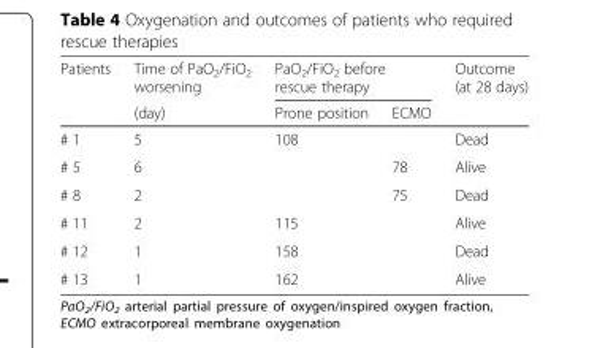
<table><thead><tr><td rowspan="2">Patients</td><td rowspan="2">Time of PaO<sub>2</sub>/FiO<sub>2</sub> worsening (day)</td><td colspan="2">PaO<sub>2</sub>/FiO<sub>2</sub> before rescue therapy</td><td rowspan="2">Outcome (at 28 days)</td></tr><tr><td>Prone position</td><td>ECMO</td></tr></thead><tbody><tr><td># 1</td><td>5</td><td>108</td><td></td><td>Dead</td></tr><tr><td># 5</td><td>6</td><td></td><td>78</td><td>Alive</td></tr><tr><td># 8</td><td>2</td><td></td><td>75</td><td>Dead</td></tr><tr><td># 11</td><td>2</td><td>115</td><td></td><td>Alive</td></tr><tr><td># 12</td><td>1</td><td>158</td><td></td><td>Dead</td></tr><tr><td># 13</td><td>1</td><td>162</td><td></td><td>Alive</td></tr></tbody></table>